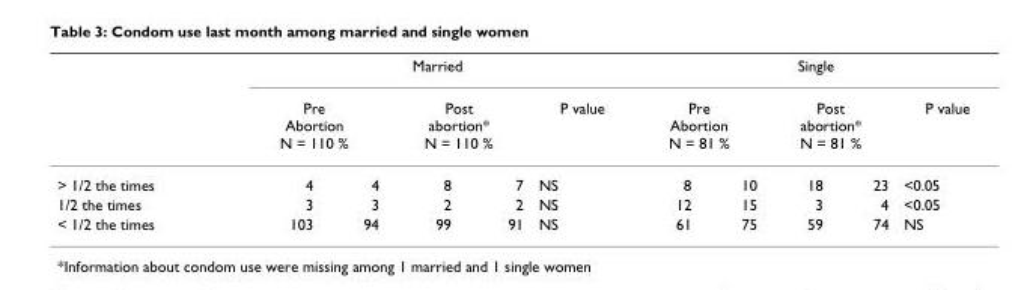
<table><thead><tr><td rowspan="3">&gt; 1/2 the times</td><td colspan="5">Married</td><td colspan="5">Single</td></tr><tr><td colspan="2">Pre Abortion N = 110 %</td><td colspan="2">Post abortion* N = 110 %</td><td rowspan="2">P value NS</td><td colspan="2">Pre Abortion N = 81 %</td><td colspan="2">Post abortion* N = 81 %</td><td rowspan="2">P value &lt;0.05</td></tr><tr><td>4</td><td>4</td><td>8</td><td>7</td><td>8</td><td>10</td><td>18</td><td>23</td></tr></thead><tbody><tr><td>1/2 the times</td><td>3</td><td>3</td><td>2</td><td>2</td><td>NS</td><td>12</td><td>15</td><td>3</td><td>4</td><td>&lt;0.05</td></tr><tr><td>&lt; 1/2 the times</td><td>103</td><td>94</td><td>99</td><td>91</td><td>NS</td><td>61</td><td>75</td><td>59</td><td>74</td><td>NS</td></tr></tbody></table>